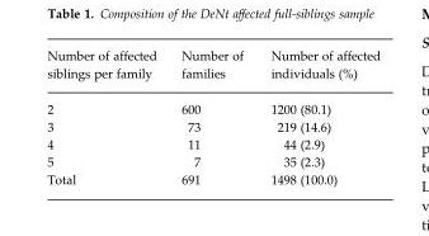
<table><thead><tr><td>Number of affected siblings per family</td><td>Number of families</td><td>Number of affected individuals (%)</td></tr></thead><tbody><tr><td>2</td><td>600</td><td>1200 (80.1)</td></tr><tr><td>3</td><td>73</td><td>219 (14.6)</td></tr><tr><td>4</td><td>11</td><td>44 (2.9)</td></tr><tr><td>5</td><td>7</td><td>35 (2.3)</td></tr><tr><td>Total</td><td>691</td><td>1498 (100.0)</td></tr></tbody></table>